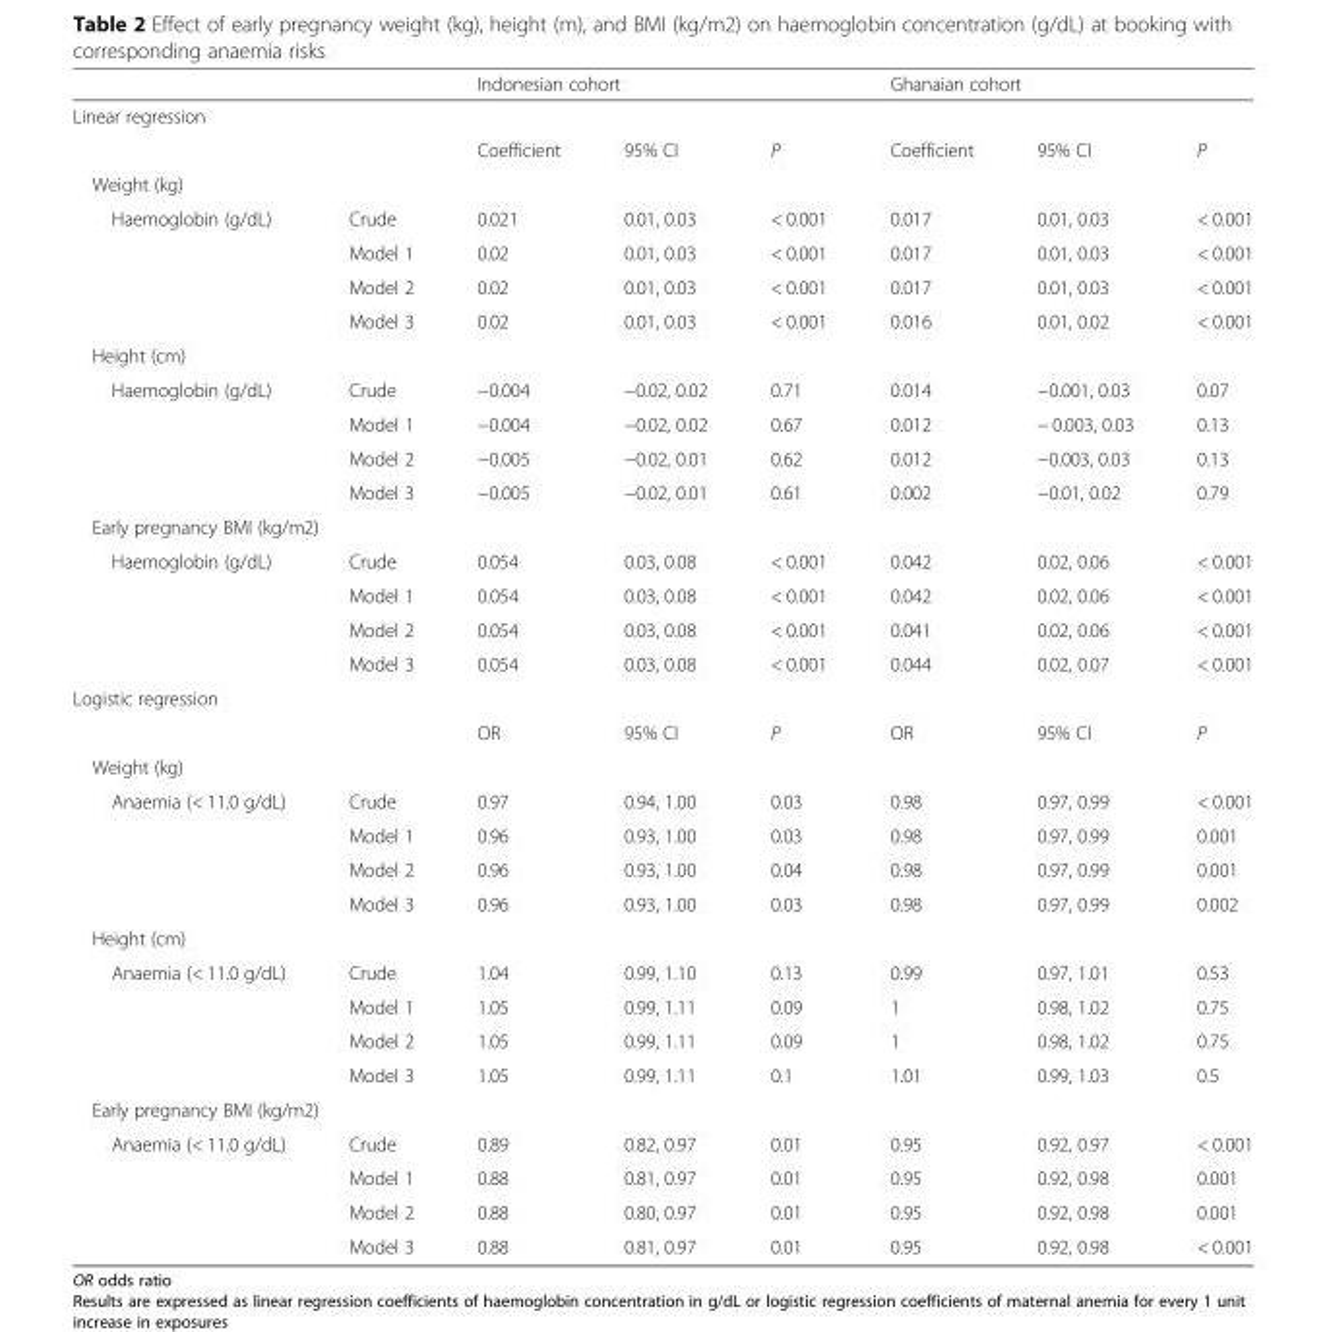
<table><thead><tr><td></td><td></td><td colspan="3">Indonesian cohort</td><td colspan="3">Ghanaian cohort</td></tr><tr><td colspan="8">Linear regression</td></tr><tr><td></td><td></td><td>Coefficient</td><td>95% CI</td><td>P</td><td>Coefficient</td><td>95% CI</td><td>P</td></tr></thead><tbody><tr><td colspan="8">Weight (kg)</td></tr><tr><td rowspan="4">Haemoglobin (g/dL)</td><td>Crude</td><td>0.021</td><td>0.01, 0.03</td><td>&lt; 0.001</td><td>0.017</td><td>0.01, 0.03</td><td>&lt; 0.001</td></tr><tr><td>Model 1</td><td>0.02</td><td>0.01, 0.03</td><td>&lt; 0.001</td><td>0.017</td><td>0.01, 0.03</td><td>&lt; 0.001</td></tr><tr><td>Model 2</td><td>0.02</td><td>0.01, 0.03</td><td>&lt; 0.001</td><td>0.017</td><td>0.01, 0.03</td><td>&lt; 0.001</td></tr><tr><td>Model 3</td><td>0.02</td><td>0.01, 0.03</td><td>&lt; 0.001</td><td>0.016</td><td>0.01, 0.02</td><td>&lt; 0.001</td></tr><tr><td colspan="8">Height (cm)</td></tr><tr><td rowspan="4">Haemoglobin (g/dL)</td><td>Crude</td><td>−0.004</td><td>−0.02, 0.02</td><td>0.71</td><td>0.014</td><td>−0.001, 0.03</td><td>0.07</td></tr><tr><td>Model 1</td><td>−0.004</td><td>−0.02, 0.02</td><td>0.67</td><td>0.012</td><td>− 0.003, 0.03</td><td>0.13</td></tr><tr><td>Model 2</td><td>−0.005</td><td>−0.02, 0.01</td><td>0.62</td><td>0.012</td><td>−0.003, 0.03</td><td>0.13</td></tr><tr><td>Model 3</td><td>−0.005</td><td>−0.02, 0.01</td><td>0.61</td><td>0.002</td><td>−0.01, 0.02</td><td>0.79</td></tr><tr><td colspan="8">Early pregnancy BMI (kg/m2)</td></tr><tr><td rowspan="4">Haemoglobin (g/dL)</td><td>Crude</td><td>0.054</td><td>0.03, 0.08</td><td>&lt; 0.001</td><td>0.042</td><td>0.02, 0.06</td><td>&lt; 0.001</td></tr><tr><td>Model 1</td><td>0.054</td><td>0.03, 0.08</td><td>&lt; 0.001</td><td>0.042</td><td>0.02, 0.06</td><td>&lt; 0.001</td></tr><tr><td>Model 2</td><td>0.054</td><td>0.03, 0.08</td><td>&lt; 0.001</td><td>0.041</td><td>0.02, 0.06</td><td>&lt; 0.001</td></tr><tr><td>Model 3</td><td>0.054</td><td>0.03, 0.08</td><td>&lt; 0.001</td><td>0.044</td><td>0.02, 0.07</td><td>&lt; 0.001</td></tr><tr><td colspan="8">Logistic regression</td></tr><tr><td></td><td></td><td>OR</td><td>95% CI</td><td>P</td><td>OR</td><td>95% CI</td><td>P</td></tr><tr><td colspan="8">Weight (kg)</td></tr><tr><td rowspan="4">Anaemia (&lt; 11.0 g/dL)</td><td>Crude</td><td>0.97</td><td>0.94, 1.00</td><td>0.03</td><td>0.98</td><td>0.97, 0.99</td><td>&lt; 0.001</td></tr><tr><td>Model 1</td><td>0.96</td><td>0.93, 1.00</td><td>0.03</td><td>0.98</td><td>0.97, 0.99</td><td>0.001</td></tr><tr><td>Model 2</td><td>0.96</td><td>0.93, 1.00</td><td>0.04</td><td>0.98</td><td>0.97, 0.99</td><td>0.001</td></tr><tr><td>Model 3</td><td>0.96</td><td>0.93, 1.00</td><td>0.03</td><td>0.98</td><td>0.97, 0.99</td><td>0.002</td></tr><tr><td colspan="8">Height (cm)</td></tr><tr><td rowspan="4">Anaemia (&lt; 11.0 g/dL)</td><td>Crude</td><td>1.04</td><td>0.99, 1.10</td><td>0.13</td><td>0.99</td><td>0.97, 1.01</td><td>0.53</td></tr><tr><td>Model 1</td><td>1.05</td><td>0.99, 1.11</td><td>0.09</td><td>1</td><td>0.98, 1.02</td><td>0.75</td></tr><tr><td>Model 2</td><td>1.05</td><td>0.99, 1.11</td><td>0.09</td><td>1</td><td>0.98, 1.02</td><td>0.75</td></tr><tr><td>Model 3</td><td>1.05</td><td>0.99, 1.11</td><td>0.1</td><td>1.01</td><td>0.99, 1.03</td><td>0.5</td></tr><tr><td colspan="8">Early pregnancy BMI (kg/m2)</td></tr><tr><td rowspan="4">Anaemia (&lt; 11.0 g/dL)</td><td>Crude</td><td>0.89</td><td>0.82, 0.97</td><td>0.01</td><td>0.95</td><td>0.92, 0.97</td><td>&lt; 0.001</td></tr><tr><td>Model 1</td><td>0.88</td><td>0.81, 0.97</td><td>0.01</td><td>0.95</td><td>0.92, 0.98</td><td>0.001</td></tr><tr><td>Model 2</td><td>0.88</td><td>0.80, 0.97</td><td>0.01</td><td>0.95</td><td>0.92, 0.98</td><td>0.001</td></tr><tr><td>Model 3</td><td>0.88</td><td>0.81, 0.97</td><td>0.01</td><td>0.95</td><td>0.92, 0.98</td><td>&lt; 0.001</td></tr></tbody></table>